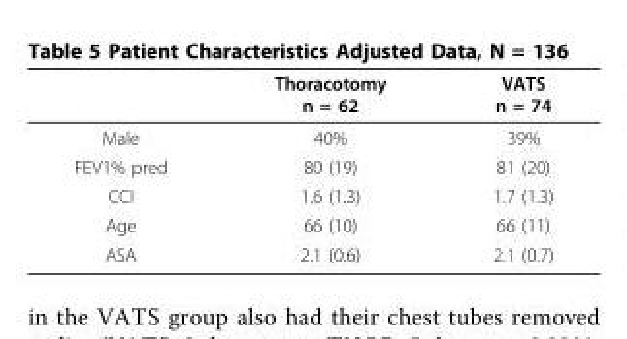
<table><thead><tr><td></td><td>Thoracotomy n = 62</td><td>VATS n = 74</td></tr></thead><tbody><tr><td>Male</td><td>40%</td><td>39%</td></tr><tr><td>FEV1% pred</td><td>80 (19)</td><td>81 (20)</td></tr><tr><td>CCI</td><td>1.6 (1.3)</td><td>1.7 (1.3)</td></tr><tr><td>Age</td><td>66 (10)</td><td>66 (11)</td></tr><tr><td>ASA</td><td>2.1 (0.6)</td><td>2.1 (0.7)</td></tr></tbody></table>